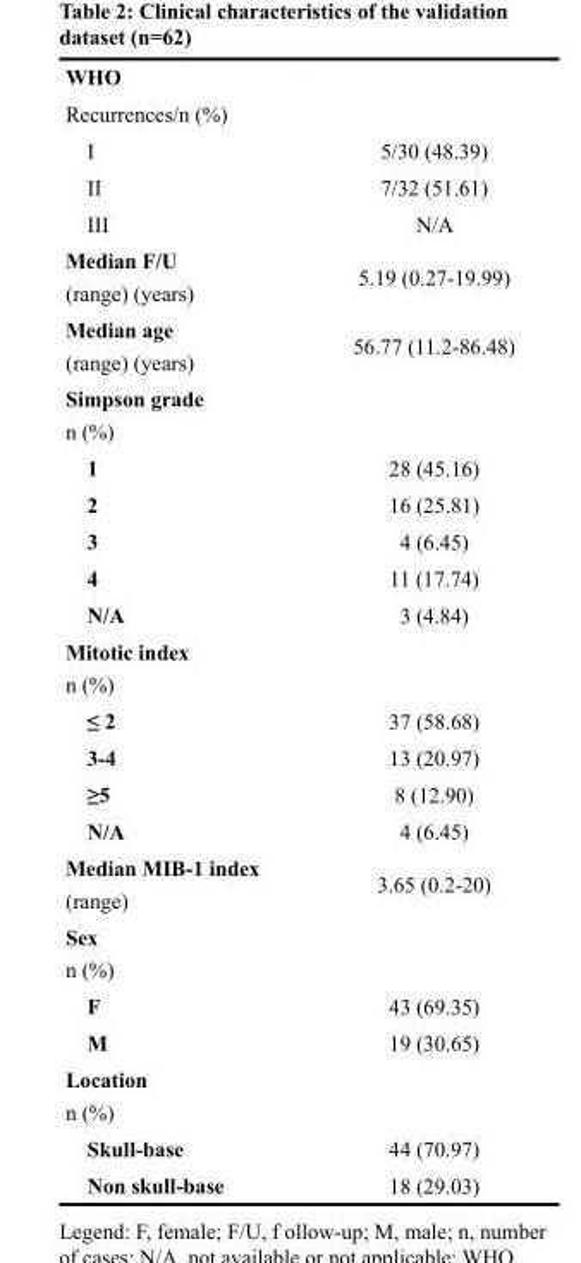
<table><thead><tr><td>WHO</td><td></td></tr></thead><tbody><tr><td colspan="2">Recurrences/n (%)</td></tr><tr><td>I</td><td>5/30 (48.39)</td></tr><tr><td>II</td><td>7/32 (51.61)</td></tr><tr><td>III</td><td>N/A</td></tr><tr><td>Median F/U (range) (years)</td><td>5.19 (0.27-19.99)</td></tr><tr><td>Median age (range) (years)</td><td>56.77 (11.2-86.48)</td></tr><tr><td colspan="2">Simpson grade n (%)</td></tr><tr><td>1</td><td>28 (45.16)</td></tr><tr><td>2</td><td>16 (25.81)</td></tr><tr><td>3</td><td>4 (6.45)</td></tr><tr><td>4</td><td>11 (17.74)</td></tr><tr><td>N/A</td><td>3 (4.84)</td></tr><tr><td colspan="2">Mitotic index n (%)</td></tr><tr><td>≤ 2</td><td>37 (58.68)</td></tr><tr><td>3-4</td><td>13 (20.97)</td></tr><tr><td>≥5</td><td>8 (12.90)</td></tr><tr><td>N/A</td><td>4 (6.45)</td></tr><tr><td>Median MIB-1 index (range)</td><td>3.65 (0.2-20)</td></tr><tr><td colspan="2">Sex n (%)</td></tr><tr><td>F</td><td>43 (69.35)</td></tr><tr><td>M</td><td>19 (30.65)</td></tr><tr><td colspan="2">Location n (%)</td></tr><tr><td>Skull-base</td><td>44 (70.97)</td></tr><tr><td>Non skull-base</td><td>18 (29.03)</td></tr></tbody></table>